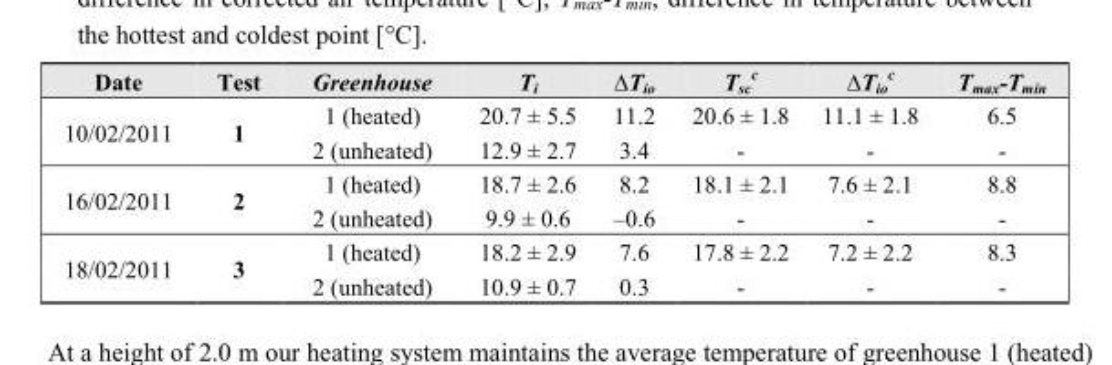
<table><thead><tr><td>Date</td><td>Test</td><td>Greenhouse</td><td>T<sub>i</sub></td><td>∆Tio</td><td>T<sub>sc</sub> <sup>c</sup></td><td>∆Tio c</td><td>T<sub>max</sub>-T<sub>min</sub></td></tr></thead><tbody><tr><td rowspan="2">10/02/2011</td><td rowspan="2">1</td><td>1 (heated)</td><td>20.7 ± 5.5</td><td>11.2</td><td>20.6 ± 1.8</td><td>11.1 ± 1.8</td><td>6.5</td></tr><tr><td>2 (unheated)</td><td>12.9 ± 2.7</td><td>3.4</td><td>-</td><td>-</td><td>-</td></tr><tr><td rowspan="2">16/02/2011</td><td rowspan="2">2</td><td>1 (heated)</td><td>18.7 ± 2.6</td><td>8.2</td><td>18.1 ± 2.1</td><td>7.6 ± 2.1</td><td>8.8</td></tr><tr><td>2 (unheated)</td><td>9.9 ± 0.6</td><td>–0.6</td><td>-</td><td>-</td><td>-</td></tr><tr><td rowspan="2">18/02/2011</td><td rowspan="2">3</td><td>1 (heated)</td><td>18.2 ± 2.9</td><td>7.6</td><td>17.8 ± 2.2</td><td>7.2 ± 2.2</td><td>8.3</td></tr><tr><td>2 (unheated)</td><td>10.9 ± 0.7</td><td>0.3</td><td>-</td><td>-</td><td>-</td></tr></tbody></table>